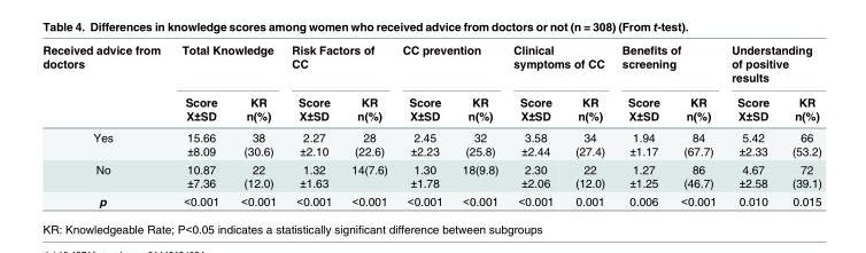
<table><thead><tr><td rowspan="3">Received advice from doctors</td><td colspan="2">Total Knowledge</td><td colspan="2">Risk Factors of CC</td><td colspan="2">CC prevention</td><td colspan="2">Clinical symptoms of CC</td><td colspan="2">Benefits of screening</td><td colspan="2">Understanding of positive results</td></tr><tr><td rowspan="2">Score X±SD</td><td rowspan="2">KR n(%)</td><td rowspan="2">Score X±SD</td><td rowspan="2">KR n(%)</td><td rowspan="2">Score X±SD</td><td rowspan="2">KR n(%)</td><td rowspan="2">Score X±SD</td><td rowspan="2">KR n(%)</td><td rowspan="2">Score X±SD</td><td rowspan="2">KR n(%)</td><td rowspan="2">Score X±SD</td><td rowspan="2">KR n(%)</td></tr><tr></tr></thead><tbody><tr><td>Yes</td><td>15.66 ±8.09</td><td>38 (30.6)</td><td>2.27 ±2.10</td><td>28 (22.6)</td><td>2.45 ±2.23</td><td>32 (25.8)</td><td>3.58 ±2.44</td><td>34 (27.4)</td><td>1.94 ±1.17</td><td>84 (67.7)</td><td>5.42 ±2.33</td><td>66 (53.2)</td></tr><tr><td>No</td><td>10.87 ±7.36</td><td>22 (12.0)</td><td>1.32 ±1.63</td><td>14(7.6)</td><td>1.30 ±1.78</td><td>18(9.8)</td><td>2.30 ±2.06</td><td>22 (12.0)</td><td>1.27 ±1.25</td><td>86 (46.7)</td><td>4.67 ±2.58</td><td>72 (39.1)</td></tr><tr><td>p</td><td>&lt;0.001</td><td>&lt;0.001</td><td>&lt;0.001</td><td>&lt;0.001</td><td>&lt;0.001</td><td>&lt;0.001</td><td>&lt;0.001</td><td>0.001</td><td>0.006</td><td>&lt;0.001</td><td>0.010</td><td>0.015</td></tr></tbody></table>